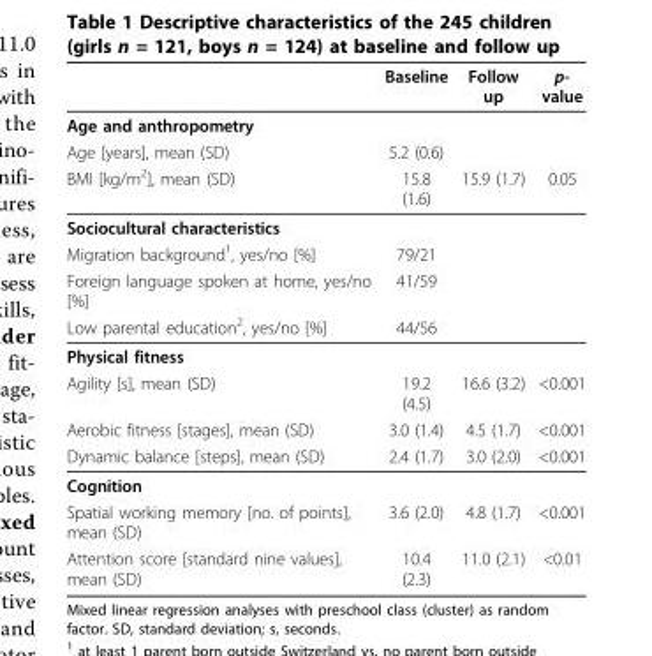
<table><thead><tr><td></td><td>Baseline</td><td>Follow up</td><td>p- value</td></tr></thead><tbody><tr><td colspan="4">Age and anthropometry</td></tr><tr><td>Age [years], mean (SD)</td><td>5.2 (0.6)</td><td></td><td></td></tr><tr><td>BMI [kg/m<sup>2</sup>], mean (SD)</td><td>15.8 (1.6)</td><td>15.9 (1.7)</td><td>0.05</td></tr><tr><td colspan="4">Sociocultural characteristics</td></tr><tr><td>Migration background<sup>1</sup>, yes/no [%]</td><td>79/21</td><td></td><td></td></tr><tr><td>Foreign language spoken at home, yes/no [%]</td><td>41/59</td><td></td><td></td></tr><tr><td>Low parental education<sup>2</sup>, yes/no [%]</td><td>44/56</td><td></td><td></td></tr><tr><td colspan="4">Physical fitness</td></tr><tr><td>Agility [s], mean (SD)</td><td>19.2 (4.5)</td><td>16.6 (3.2)</td><td>&lt;0.001</td></tr><tr><td>Aerobic fitness [stages], mean (SD)</td><td>3.0 (1.4)</td><td>4.5 (1.7)</td><td>&lt;0.001</td></tr><tr><td>Dynamic balance [steps], mean (SD)</td><td>2.4 (1.7)</td><td>3.0 (2.0)</td><td>&lt;0.001</td></tr><tr><td colspan="4">Cognition</td></tr><tr><td>Spatial working memory [no. of points], mean (SD)</td><td>3.6 (2.0)</td><td>4.8 (1.7)</td><td>&lt;0.001</td></tr><tr><td>Attention score [standard nine values], mean (SD)</td><td>10.4 (2.3)</td><td>11.0 (2.1)</td><td>&lt;0.01</td></tr></tbody></table>